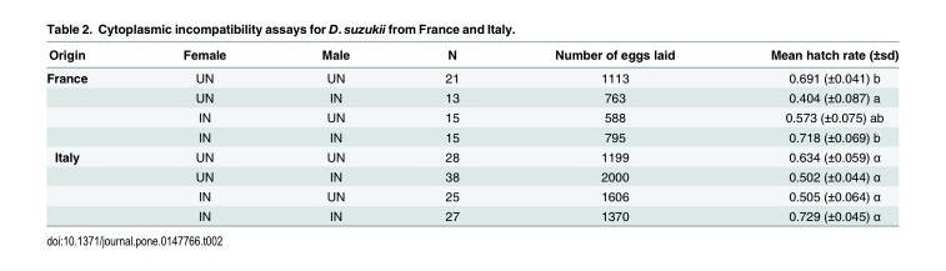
<table><thead><tr><td>Origin</td><td>Female</td><td>Male</td><td>N</td><td>Number of eggs laid</td><td>Mean hatch rate (±sd)</td></tr></thead><tbody><tr><td rowspan="4">France</td><td>UN</td><td>UN</td><td>21</td><td>1113</td><td>0.691 (±0.041) b</td></tr><tr><td>UN</td><td>IN</td><td>13</td><td>763</td><td>0.404 (±0.087) a</td></tr><tr><td>IN</td><td>UN</td><td>15</td><td>588</td><td>0.573 (±0.075) ab</td></tr><tr><td>IN</td><td>IN</td><td>15</td><td>795</td><td>0.718 (±0.069) b</td></tr><tr><td rowspan="4">Italy</td><td>UN</td><td>UN</td><td>28</td><td>1199</td><td>0.634 (±0.059) α</td></tr><tr><td>UN</td><td>IN</td><td>38</td><td>2000</td><td>0.502 (±0.044) α</td></tr><tr><td>IN</td><td>UN</td><td>25</td><td>1606</td><td>0.505 (±0.064) α</td></tr><tr><td>IN</td><td>IN</td><td>27</td><td>1370</td><td>0.729 (±0.045) α</td></tr></tbody></table>